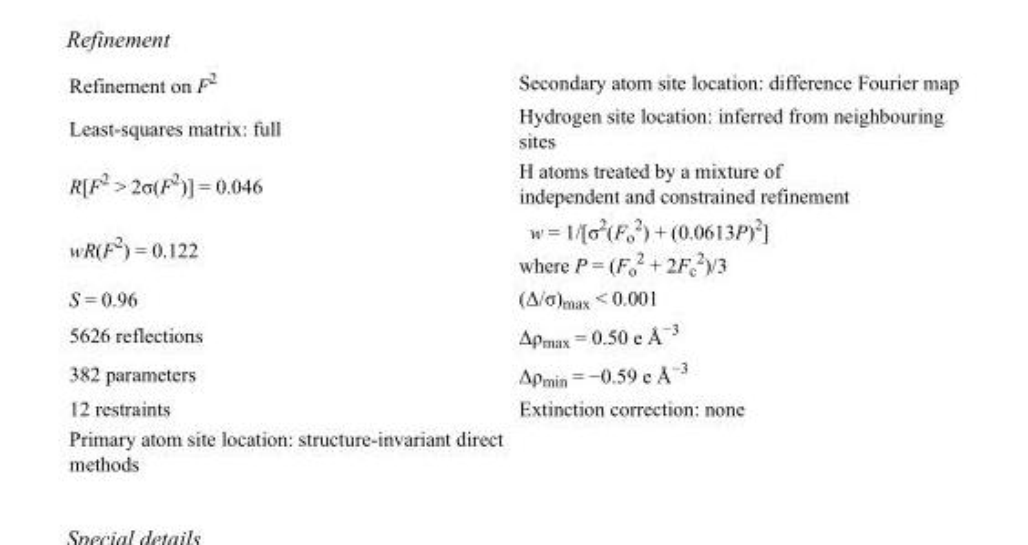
<table><tbody><tr><td>Refinement on F<sup>2</sup></td><td>Secondary atom site location: difference Fourier map</td></tr><tr><td>Least-squares matrix: full</td><td>Hydrogen site location: inferred from neighbouring sites</td></tr><tr><td>R[F<sup>2</sup> &gt; 2σ(F<sup>2</sup>)] = 0.046</td><td>H atoms treated by a mixture of independent and constrained refinement</td></tr><tr><td>wR(F<sup>2</sup>) = 0.122</td><td>w = 1/[σ<sup>2</sup>(F<sub>o</sub> <sup>2</sup>) + (0.0613P)<sup>2</sup>] where P = (F<sub>o</sub> <sup>2</sup> + 2F<sub>c</sub> <sup>2</sup>)/3</td></tr><tr><td>S = 0.96</td><td>(Δ/σ)<sub>max</sub> &lt; 0.001</td></tr><tr><td>5626 reflections</td><td>Δρ<sub>max</sub> = 0.50 e Å<sup>−3</sup></td></tr><tr><td>382 parameters</td><td>Δρ<sub>min</sub> = −0.59 e Å<sup>−3</sup></td></tr><tr><td>12 restraints</td><td>Extinction correction: none</td></tr><tr><td>Primary atom site location: structure-invariant direct methods</td><td></td></tr></tbody></table>